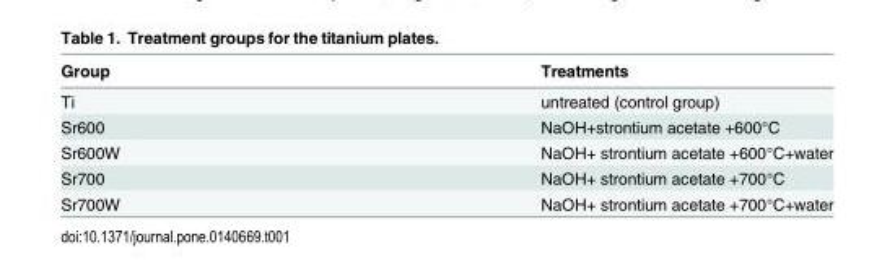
<table><thead><tr><td>Group</td><td>Treatments</td></tr></thead><tbody><tr><td>Ti</td><td>untreated (control group)</td></tr><tr><td>Sr600</td><td>NaOH+strontium acetate +600°C</td></tr><tr><td>Sr600W</td><td>NaOH+ strontium acetate +600°C+water</td></tr><tr><td>Sr700</td><td>NaOH+ strontium acetate +700°C</td></tr><tr><td>Sr700W</td><td>NaOH+ strontium acetate +700°C+water</td></tr></tbody></table>